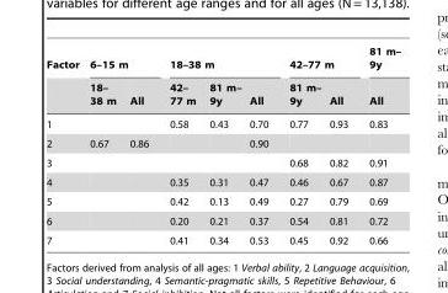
<table><thead><tr><td rowspan="2">Factor</td><td colspan="2">6–15 m</td><td colspan="3">18–38 m</td><td colspan="2">42–77 m</td><td rowspan="2">81 m– 9y All</td></tr><tr><td>18– 38 m</td><td>All</td><td>42– 77 m</td><td>81 m– 9y</td><td>All</td><td>81 m– 9y</td><td>All</td></tr></thead><tbody><tr><td>1</td><td></td><td></td><td>0.58</td><td>0.43</td><td>0.70</td><td>0.77</td><td>0.93</td><td>0.83</td></tr><tr><td>2</td><td>0.67</td><td>0.86</td><td></td><td></td><td>0.90</td><td></td><td></td><td></td></tr><tr><td>3</td><td></td><td></td><td></td><td></td><td></td><td>0.68</td><td>0.82</td><td>0.91</td></tr><tr><td>4</td><td></td><td></td><td>0.35</td><td>0.31</td><td>0.47</td><td>0.46</td><td>0.67</td><td>0.87</td></tr><tr><td>5</td><td></td><td></td><td>0.42</td><td>0.13</td><td>0.49</td><td>0.27</td><td>0.79</td><td>0.69</td></tr><tr><td>6</td><td></td><td></td><td>0.20</td><td>0.21</td><td>0.37</td><td>0.54</td><td>0.81</td><td>0.72</td></tr><tr><td>7</td><td></td><td></td><td>0.41</td><td>0.34</td><td>0.53</td><td>0.45</td><td>0.92</td><td>0.66</td></tr></tbody></table>